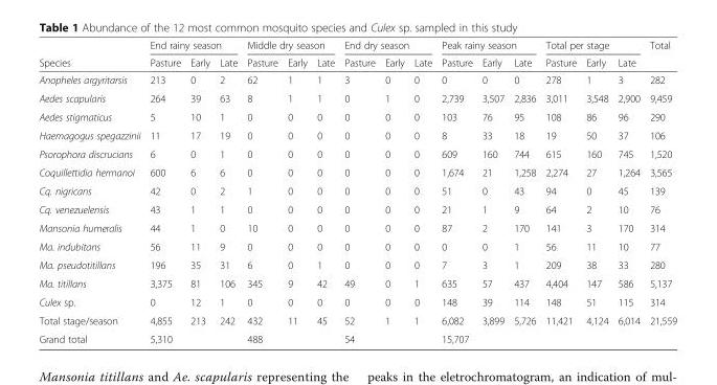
<table><thead><tr><td rowspan="2">Species</td><td colspan="3">End rainy season</td><td colspan="3">Middle dry season</td><td colspan="3">End dry season</td><td colspan="3">Peak rainy season</td><td colspan="3">Total per stage</td><td rowspan="2">Total</td></tr><tr><td>Pasture</td><td>Early</td><td>Late</td><td>Pasture</td><td>Early</td><td>Late</td><td>Pasture</td><td>Early</td><td>Late</td><td>Pasture</td><td>Early</td><td>Late</td><td>Pasture</td><td>Early</td><td>Late</td></tr></thead><tbody><tr><td>Anopheles argyritarsis</td><td>213</td><td>0</td><td>2</td><td>62</td><td>1</td><td>1</td><td>3</td><td>0</td><td>0</td><td>0</td><td>0</td><td>0</td><td>278</td><td>1</td><td>3</td><td>282</td></tr><tr><td>Aedes scapularis</td><td>264</td><td>39</td><td>63</td><td>8</td><td>1</td><td>1</td><td>0</td><td>1</td><td>0</td><td>2,739</td><td>3,507</td><td>2,836</td><td>3,011</td><td>3,548</td><td>2,900</td><td>9,459</td></tr><tr><td>Aedes stigmaticus</td><td>5</td><td>10</td><td>1</td><td>0</td><td>0</td><td>0</td><td>0</td><td>0</td><td>0</td><td>103</td><td>76</td><td>95</td><td>108</td><td>86</td><td>96</td><td>290</td></tr><tr><td>Haemagogus spegazzinii</td><td>11</td><td>17</td><td>19</td><td>0</td><td>0</td><td>0</td><td>0</td><td>0</td><td>0</td><td>8</td><td>33</td><td>18</td><td>19</td><td>50</td><td>37</td><td>106</td></tr><tr><td>Psorophora discrucians</td><td>6</td><td>0</td><td>1</td><td>0</td><td>0</td><td>0</td><td>0</td><td>0</td><td>0</td><td>609</td><td>160</td><td>744</td><td>615</td><td>160</td><td>745</td><td>1,520</td></tr><tr><td>Coquillettidia hermanoi</td><td>600</td><td>6</td><td>6</td><td>0</td><td>0</td><td>0</td><td>0</td><td>0</td><td>0</td><td>1,674</td><td>21</td><td>1,258</td><td>2,274</td><td>27</td><td>1,264</td><td>3,565</td></tr><tr><td>Cq. nigricans</td><td>42</td><td>0</td><td>2</td><td>1</td><td>0</td><td>0</td><td>0</td><td>0</td><td>0</td><td>51</td><td>0</td><td>43</td><td>94</td><td>0</td><td>45</td><td>139</td></tr><tr><td>Cq. venezuelensis</td><td>43</td><td>1</td><td>1</td><td>0</td><td>0</td><td>0</td><td>0</td><td>0</td><td>0</td><td>21</td><td>1</td><td>9</td><td>64</td><td>2</td><td>10</td><td>76</td></tr><tr><td>Mansonia humeralis</td><td>44</td><td>1</td><td>0</td><td>10</td><td>0</td><td>0</td><td>0</td><td>0</td><td>0</td><td>87</td><td>2</td><td>170</td><td>141</td><td>3</td><td>170</td><td>314</td></tr><tr><td>Ma. indubitans</td><td>56</td><td>11</td><td>9</td><td>0</td><td>0</td><td>0</td><td>0</td><td>0</td><td>0</td><td>0</td><td>0</td><td>1</td><td>56</td><td>11</td><td>10</td><td>77</td></tr><tr><td>Ma. pseudotitillans</td><td>196</td><td>35</td><td>31</td><td>6</td><td>0</td><td>1</td><td>0</td><td>0</td><td>0</td><td>7</td><td>3</td><td>1</td><td>209</td><td>38</td><td>33</td><td>280</td></tr><tr><td>Ma. titillans</td><td>3,375</td><td>81</td><td>106</td><td>345</td><td>9</td><td>42</td><td>49</td><td>0</td><td>1</td><td>635</td><td>57</td><td>437</td><td>4,404</td><td>147</td><td>586</td><td>5,137</td></tr><tr><td>Culex sp.</td><td>0</td><td>12</td><td>1</td><td>0</td><td>0</td><td>0</td><td>0</td><td>0</td><td>0</td><td>148</td><td>39</td><td>114</td><td>148</td><td>51</td><td>115</td><td>314</td></tr><tr><td>Total stage/season</td><td>4,855</td><td>213</td><td>242</td><td>432</td><td>11</td><td>45</td><td>52</td><td>1</td><td>1</td><td>6,082</td><td>3,899</td><td>5,726</td><td rowspan="2">11,421</td><td rowspan="2">4,124</td><td rowspan="2">6,014</td><td rowspan="2">21,559</td></tr><tr><td>Grand total</td><td colspan="3">5,310</td><td colspan="3">488</td><td colspan="3">54</td><td colspan="3">15,707</td></tr></tbody></table>